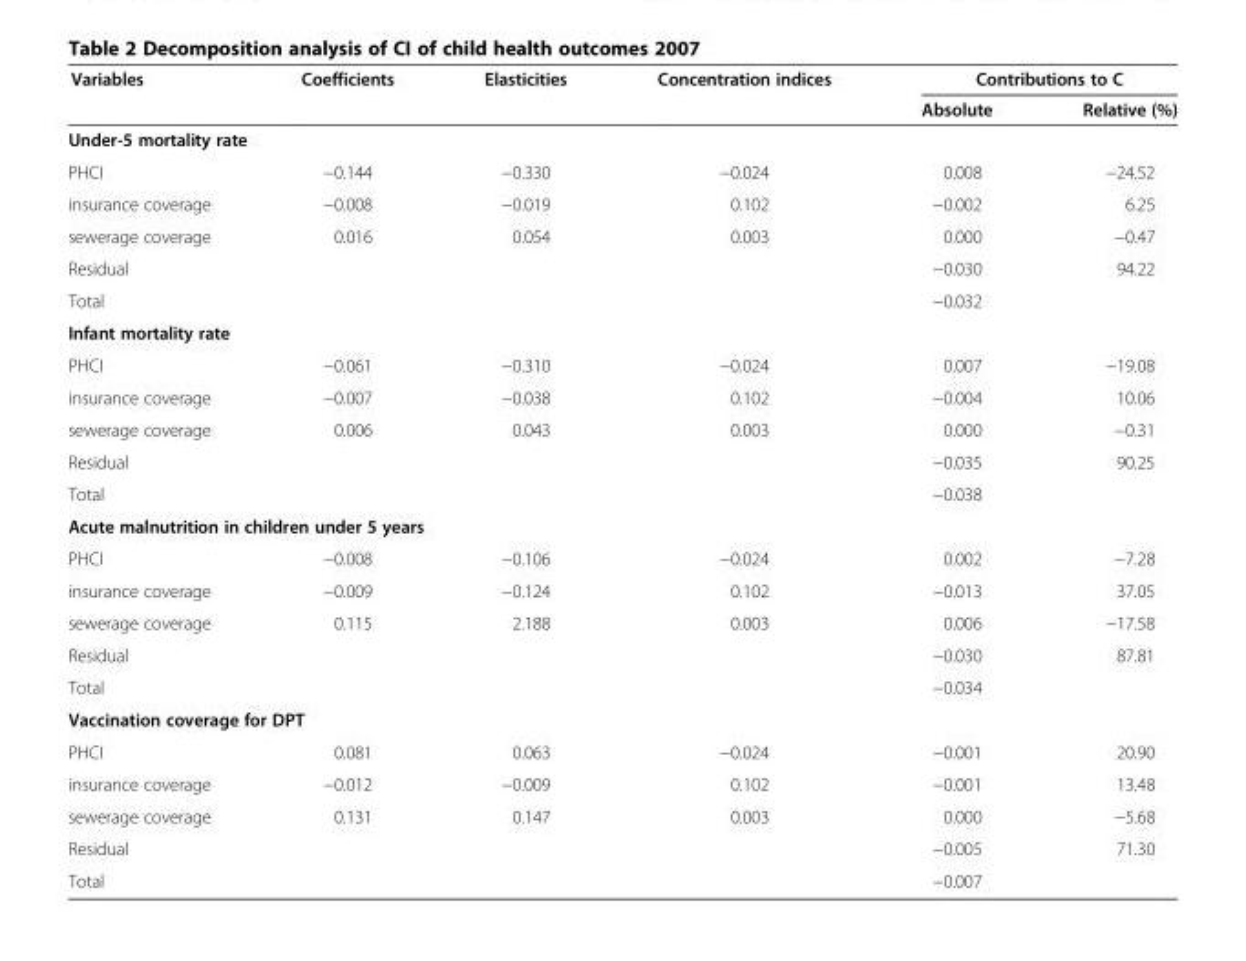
<table><thead><tr><td rowspan="2">Variables</td><td rowspan="2">Coefficients</td><td rowspan="2">Elasticities</td><td rowspan="2">Concentration indices</td><td colspan="2">Contributions to C</td></tr><tr><td>Absolute</td><td>Relative (%)</td></tr></thead><tbody><tr><td colspan="6">Under-5 mortality rate</td></tr><tr><td>PHCI</td><td>−0.144</td><td>−0.330</td><td>−0.024</td><td>0.008</td><td>−24.52</td></tr><tr><td>insurance coverage</td><td>−0.008</td><td>−0.019</td><td>0.102</td><td>−0.002</td><td>6.25</td></tr><tr><td>sewerage coverage</td><td>0.016</td><td>0.054</td><td>0.003</td><td>0.000</td><td>−0.47</td></tr><tr><td>Residual</td><td></td><td></td><td></td><td>−0.030</td><td>94.22</td></tr><tr><td>Total</td><td></td><td></td><td></td><td>−0.032</td><td></td></tr><tr><td colspan="6">Infant mortality rate</td></tr><tr><td>PHCI</td><td>−0.061</td><td>−0.310</td><td>−0.024</td><td>0.007</td><td>−19.08</td></tr><tr><td>insurance coverage</td><td>−0.007</td><td>−0.038</td><td>0.102</td><td>−0.004</td><td>10.06</td></tr><tr><td>sewerage coverage</td><td>0.006</td><td>0.043</td><td>0.003</td><td>0.000</td><td>−0.31</td></tr><tr><td>Residual</td><td></td><td></td><td></td><td>−0.035</td><td>90.25</td></tr><tr><td>Total</td><td></td><td></td><td></td><td>−0.038</td><td></td></tr><tr><td colspan="6">Acute malnutrition in children under 5 years</td></tr><tr><td>PHCI</td><td>−0.008</td><td>−0.106</td><td>−0.024</td><td>0.002</td><td>−7.28</td></tr><tr><td>insurance coverage</td><td>−0.009</td><td>−0.124</td><td>0.102</td><td>−0.013</td><td>37.05</td></tr><tr><td>sewerage coverage</td><td>0.115</td><td>2.188</td><td>0.003</td><td>0.006</td><td>−17.58</td></tr><tr><td>Residual</td><td></td><td></td><td></td><td>−0.030</td><td>87.81</td></tr><tr><td>Total</td><td></td><td></td><td></td><td>−0.034</td><td></td></tr><tr><td colspan="6">Vaccination coverage for DPT</td></tr><tr><td>PHCI</td><td>0.081</td><td>0.063</td><td>−0.024</td><td>−0.001</td><td>20.90</td></tr><tr><td>insurance coverage</td><td>−0.012</td><td>−0.009</td><td>0.102</td><td>−0.001</td><td>13.48</td></tr><tr><td>sewerage coverage</td><td>0.131</td><td>0.147</td><td>0.003</td><td>0.000</td><td>−5.68</td></tr><tr><td>Residual</td><td></td><td></td><td></td><td>−0.005</td><td>71.30</td></tr><tr><td>Total</td><td></td><td></td><td></td><td>−0.007</td><td></td></tr></tbody></table>